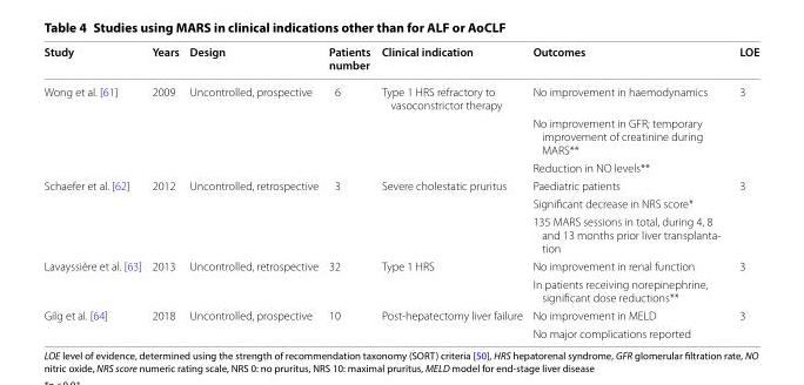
<table><thead><tr><td>Study</td><td>Years</td><td>Design</td><td>Patients number</td><td>Clinical indication</td><td>Outcomes</td><td>LOE</td></tr></thead><tbody><tr><td rowspan="3">Wong et al. [61]</td><td>2009</td><td>Uncontrolled, prospective</td><td>6</td><td>Type 1 HRS refractory to vasoconstrictor therapy</td><td>No improvement in haemodynamics</td><td>3</td></tr><tr><td></td><td></td><td></td><td></td><td>No improvement in GFR; temporary improvement of creatinine during MARS**</td><td></td></tr><tr><td></td><td></td><td></td><td></td><td>Reduction in NO levels**</td><td></td></tr><tr><td rowspan="3">Schaefer et al. [62]</td><td>2012</td><td>Uncontrolled, retrospective</td><td>3</td><td>Severe cholestatic pruritus</td><td>Paediatric patients</td><td>3</td></tr><tr><td></td><td></td><td></td><td></td><td>Significant decrease in NRS score*</td><td></td></tr><tr><td></td><td></td><td></td><td></td><td>135 MARS sessions in total, during 4, 8 and 13 months prior liver transplanta- tion</td><td></td></tr><tr><td rowspan="2">Lavayssière et al. [63]</td><td>2013</td><td>Uncontrolled, retrospective</td><td>32</td><td>Type 1 HRS</td><td>No improvement in renal function</td><td>3</td></tr><tr><td></td><td></td><td></td><td></td><td>In patients receiving norepinephrine, significant dose reductions**</td><td></td></tr><tr><td rowspan="2">Gilg et al. [64]</td><td>2018</td><td>Uncontrolled, prospective</td><td>10</td><td>Post-hepatectomy liver failure</td><td>No improvement in MELD</td><td>3</td></tr><tr><td></td><td></td><td></td><td></td><td>No major complications reported</td><td></td></tr></tbody></table>